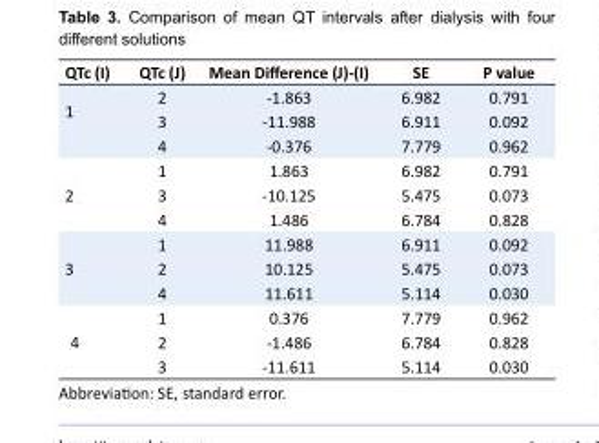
<table><tbody><tr><td>QTc (I)</td><td>QTc (J)</td><td>Mean Difference (J)-(I)</td><td>SE</td><td>P value</td></tr><tr><td rowspan="3">1</td><td>2</td><td>-1.863</td><td>6.982</td><td>0.791</td></tr><tr><td>3</td><td>-11.988</td><td>6.911</td><td>0.092</td></tr><tr><td>4</td><td>-0.376</td><td>7.779</td><td>0.962</td></tr><tr><td rowspan="3">2</td><td>1</td><td>1.863</td><td>6.982</td><td>0.791</td></tr><tr><td>3</td><td>-10.125</td><td>5.475</td><td>0.073</td></tr><tr><td>4</td><td>1.486</td><td>6.784</td><td>0.828</td></tr><tr><td rowspan="3">3</td><td>1</td><td>11.988</td><td>6.911</td><td>0.092</td></tr><tr><td>2</td><td>10.125</td><td>5.475</td><td>0.073</td></tr><tr><td>4</td><td>11.611</td><td>5.114</td><td>0.030</td></tr><tr><td rowspan="3">4</td><td>1</td><td>0.376</td><td>7.779</td><td>0.962</td></tr><tr><td>2</td><td>-1.486</td><td>6.784</td><td>0.828</td></tr><tr><td>3</td><td>-11.611</td><td>5.114</td><td>0.030</td></tr></tbody></table>